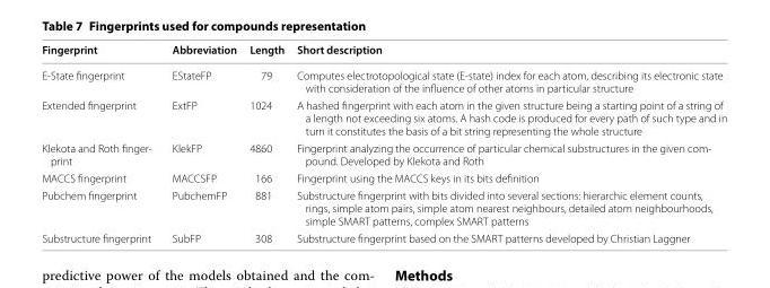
<table><thead><tr><td>Fingerprint</td><td>Abbreviation</td><td>Length</td><td>Short description</td></tr></thead><tbody><tr><td>E-State fingerprint</td><td>EStateFP</td><td>79</td><td>Computes electrotopological state (E-state) index for each atom, describing its electronic state with consideration of the influence of other atoms in particular structure</td></tr><tr><td>Extended fingerprint</td><td>ExtFP</td><td>1024</td><td>A hashed fingerprint with each atom in the given structure being a starting point of a string of a length not exceeding six atoms. A hash code is produced for every path of such type and in turn it constitutes the basis of a bit string representing the whole structure</td></tr><tr><td>Klekota and Roth finger- print</td><td>KlekFP</td><td>4860</td><td>Fingerprint analyzing the occurrence of particular chemical substructures in the given com- pound. Developed by Klekota and Roth</td></tr><tr><td>MACCS fingerprint</td><td>MACCSFP</td><td>166</td><td>Fingerprint using the MACCS keys in its bits definition</td></tr><tr><td>Pubchem fingerprint</td><td>PubchemFP</td><td>881</td><td>Substructure fingerprint with bits divided into several sections: hierarchic element counts, rings, simple atom pairs, simple atom nearest neighbours, detailed atom neighbourhoods, simple SMART patterns, complex SMART patterns</td></tr><tr><td>Substructure fingerprint</td><td>SubFP</td><td>308</td><td>Substructure fingerprint based on the SMART patterns developed by Christian Laggner</td></tr></tbody></table>